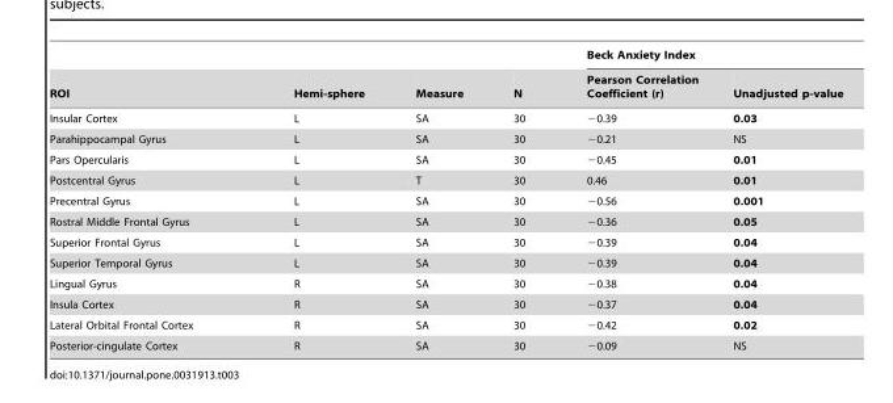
<table><thead><tr><td rowspan="2">ROI</td><td rowspan="2">Hemi-sphere</td><td rowspan="2">Measure</td><td rowspan="2">N</td><td colspan="2">Beck Anxiety Index</td></tr><tr><td>Pearson Correlation Coefficient (r)</td><td>Unadjusted p-value</td></tr></thead><tbody><tr><td>Insular Cortex</td><td>L</td><td>SA</td><td>30</td><td>−0.39</td><td>0.03</td></tr><tr><td>Parahippocampal Gyrus</td><td>L</td><td>SA</td><td>30</td><td>−0.21</td><td>NS</td></tr><tr><td>Pars Opercularis</td><td>L</td><td>SA</td><td>30</td><td>−0.45</td><td>0.01</td></tr><tr><td>Postcentral Gyrus</td><td>L</td><td>T</td><td>30</td><td>0.46</td><td>0.01</td></tr><tr><td>Precentral Gyrus</td><td>L</td><td>SA</td><td>30</td><td>−0.56</td><td>0.001</td></tr><tr><td>Rostral Middle Frontal Gyrus</td><td>L</td><td>SA</td><td>30</td><td>−0.36</td><td>0.05</td></tr><tr><td>Superior Frontal Gyrus</td><td>L</td><td>SA</td><td>30</td><td>−0.39</td><td>0.04</td></tr><tr><td>Superior Temporal Gyrus</td><td>L</td><td>SA</td><td>30</td><td>−0.39</td><td>0.04</td></tr><tr><td>Lingual Gyrus</td><td>R</td><td>SA</td><td>30</td><td>−0.38</td><td>0.04</td></tr><tr><td>Insula Cortex</td><td>R</td><td>SA</td><td>30</td><td>−0.37</td><td>0.04</td></tr><tr><td>Lateral Orbital Frontal Cortex</td><td>R</td><td>SA</td><td>30</td><td>−0.42</td><td>0.02</td></tr><tr><td>Posterior-cingulate Cortex</td><td>R</td><td>SA</td><td>30</td><td>−0.09</td><td>NS</td></tr></tbody></table>